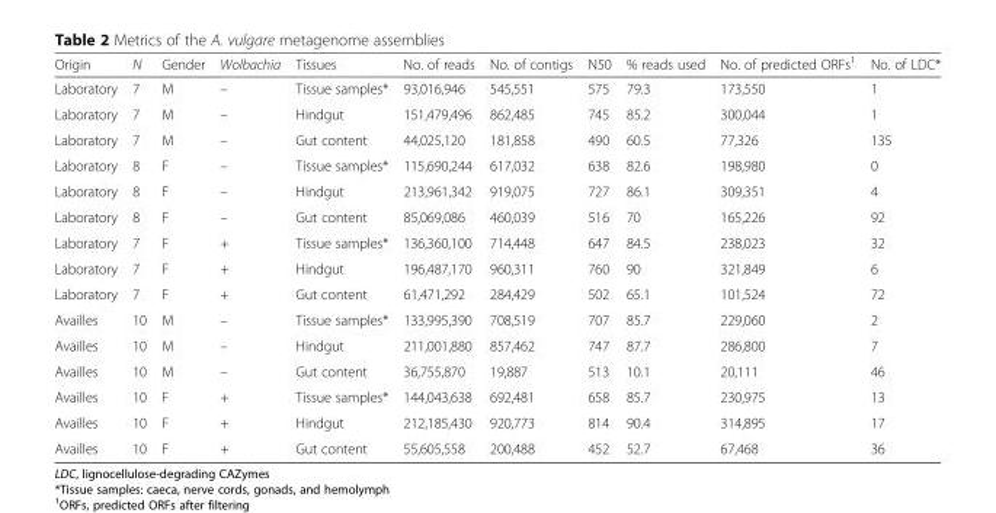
<table><thead><tr><td>Origin</td><td>N</td><td>Gender</td><td>Wolbachia</td><td>Tissues</td><td>No. of reads</td><td>No. of contigs</td><td>N50</td><td>% reads used</td><td>No. of predicted ORFs<sup>1</sup></td><td>No. of LDC*</td></tr></thead><tbody><tr><td>Laboratory</td><td>7</td><td>M</td><td>–</td><td>Tissue samples*</td><td>93,016,946</td><td>545,551</td><td>575</td><td>79.3</td><td>173,550</td><td>1</td></tr><tr><td>Laboratory</td><td>7</td><td>M</td><td>–</td><td>Hindgut</td><td>151,479,496</td><td>862,485</td><td>745</td><td>85.2</td><td>300,044</td><td>1</td></tr><tr><td>Laboratory</td><td>7</td><td>M</td><td>–</td><td>Gut content</td><td>44,025,120</td><td>181,858</td><td>490</td><td>60.5</td><td>77,326</td><td>135</td></tr><tr><td>Laboratory</td><td>8</td><td>F</td><td>–</td><td>Tissue samples*</td><td>115,690,244</td><td>617,032</td><td>638</td><td>82.6</td><td>198,980</td><td>0</td></tr><tr><td>Laboratory</td><td>8</td><td>F</td><td>–</td><td>Hindgut</td><td>213,961,342</td><td>919,075</td><td>727</td><td>86.1</td><td>309,351</td><td>4</td></tr><tr><td>Laboratory</td><td>8</td><td>F</td><td>–</td><td>Gut content</td><td>85,069,086</td><td>460,039</td><td>516</td><td>70</td><td>165,226</td><td>92</td></tr><tr><td>Laboratory</td><td>7</td><td>F</td><td>+</td><td>Tissue samples*</td><td>136,360,100</td><td>714,448</td><td>647</td><td>84.5</td><td>238,023</td><td>32</td></tr><tr><td>Laboratory</td><td>7</td><td>F</td><td>+</td><td>Hindgut</td><td>196,487,170</td><td>960,311</td><td>760</td><td>90</td><td>321,849</td><td>6</td></tr><tr><td>Laboratory</td><td>7</td><td>F</td><td>+</td><td>Gut content</td><td>61,471,292</td><td>284,429</td><td>502</td><td>65.1</td><td>101,524</td><td>72</td></tr><tr><td>Availles</td><td>10</td><td>M</td><td>–</td><td>Tissue samples*</td><td>133,995,390</td><td>708,519</td><td>707</td><td>85.7</td><td>229,060</td><td>2</td></tr><tr><td>Availles</td><td>10</td><td>M</td><td>–</td><td>Hindgut</td><td>211,001,880</td><td>857,462</td><td>747</td><td>87.7</td><td>286,800</td><td>7</td></tr><tr><td>Availles</td><td>10</td><td>M</td><td>–</td><td>Gut content</td><td>36,755,870</td><td>19,887</td><td>513</td><td>10.1</td><td>20,111</td><td>46</td></tr><tr><td>Availles</td><td>10</td><td>F</td><td>+</td><td>Tissue samples*</td><td>144,043,638</td><td>692,481</td><td>658</td><td>85.7</td><td>230,975</td><td>13</td></tr><tr><td>Availles</td><td>10</td><td>F</td><td>+</td><td>Hindgut</td><td>212,185,430</td><td>920,773</td><td>814</td><td>90.4</td><td>314,895</td><td>17</td></tr><tr><td>Availles</td><td>10</td><td>F</td><td>+</td><td>Gut content</td><td>55,605,558</td><td>200,488</td><td>452</td><td>52.7</td><td>67,468</td><td>36</td></tr></tbody></table>